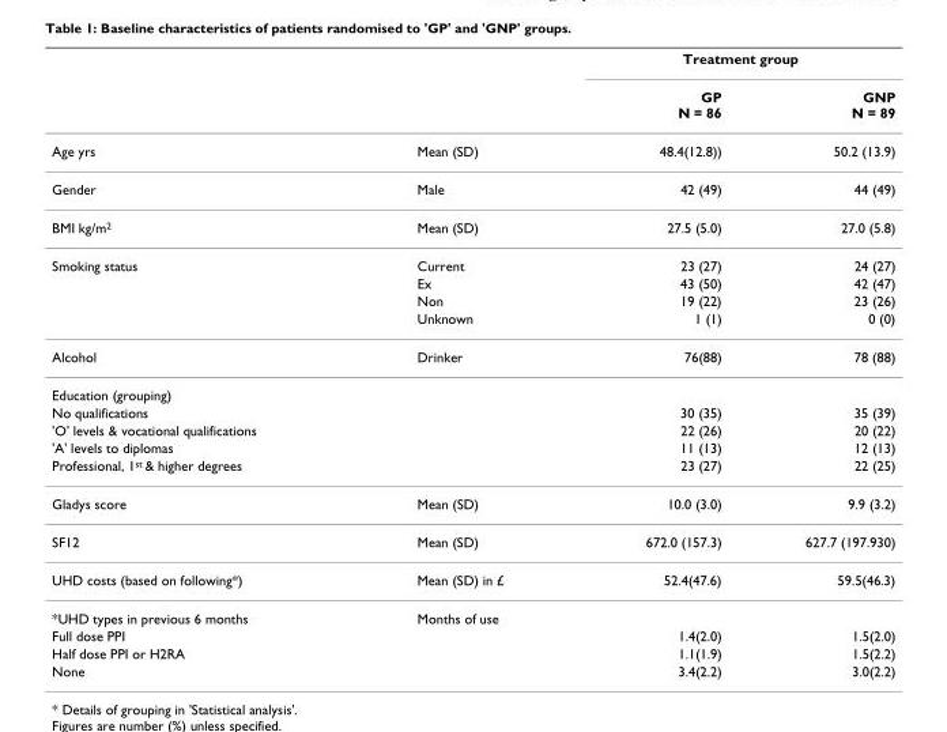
<table><thead><tr><td rowspan="2"></td><td rowspan="2"></td><td colspan="2">Treatment group</td></tr><tr><td>GP N = 86</td><td>GNP N = 89</td></tr></thead><tbody><tr><td>Age yrs</td><td>Mean (SD)</td><td>48.4(12.8))</td><td>50.2 (13.9)</td></tr><tr><td>Gender</td><td>Male</td><td>42 (49)</td><td>44 (49)</td></tr><tr><td>BMI kg/m<sup>2</sup></td><td>Mean (SD)</td><td>27.5 (5.0)</td><td>27.0 (5.8)</td></tr><tr><td rowspan="4">Smoking status</td><td>Current</td><td>23 (27)</td><td>24 (27)</td></tr><tr><td>Ex</td><td>43 (50)</td><td>42 (47)</td></tr><tr><td>Non</td><td>19 (22)</td><td>23 (26)</td></tr><tr><td>Unknown</td><td>1 (1)</td><td>0 (0)</td></tr><tr><td>Alcohol</td><td>Drinker</td><td>76(88)</td><td>78 (88)</td></tr><tr><td colspan="4">Education (grouping)</td></tr><tr><td>No qualifications</td><td></td><td>30 (35)</td><td>35 (39)</td></tr><tr><td>&#x27;O&#x27; levels &amp; vocational qualifications</td><td></td><td>22 (26)</td><td>20 (22)</td></tr><tr><td>&#x27;A&#x27; levels to diplomas</td><td></td><td>11 (13)</td><td>12 (13)</td></tr><tr><td>Professional, 1<sup>st</sup> &amp; higher degrees</td><td></td><td>23 (27)</td><td>22 (25)</td></tr><tr><td>Gladys score</td><td>Mean (SD)</td><td>10.0 (3.0)</td><td>9.9 (3.2)</td></tr><tr><td>SF12</td><td>Mean (SD)</td><td>672.0 (157.3)</td><td>627.7 (197.930)</td></tr><tr><td>UHD costs (based on following*)</td><td>Mean (SD) in £</td><td>52.4(47.6)</td><td>59.5(46.3)</td></tr><tr><td>*UHD types in previous 6 months</td><td>Months of use</td><td></td><td></td></tr><tr><td>Full dose PPI</td><td></td><td>1.4(2.0)</td><td>1.5(2.0)</td></tr><tr><td>Half dose PPI or H2RA</td><td></td><td>1.1(1.9)</td><td>1.5(2.2)</td></tr><tr><td>None</td><td></td><td>3.4(2.2)</td><td>3.0(2.2)</td></tr></tbody></table>